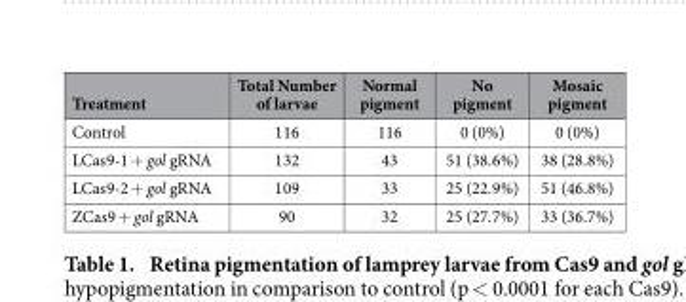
<table><thead><tr><td>Treatment</td><td>Total Number of larvae</td><td>Normal pigment</td><td>No pigment</td><td>Mosaic pigment</td></tr></thead><tbody><tr><td>Control</td><td>116</td><td>116</td><td>0 (0%)</td><td>0 (0%)</td></tr><tr><td>LCas9-1 + gol gRNA</td><td>132</td><td>43</td><td>51 (38.6%)</td><td>38 (28.8%)</td></tr><tr><td>LCas9-2 + gol gRNA</td><td>109</td><td>33</td><td>25 (22.9%)</td><td>51 (46.8%)</td></tr><tr><td>ZCas9 + gol gRNA</td><td>90</td><td>32</td><td>25 (27.7%)</td><td>33 (36.7%)</td></tr></tbody></table>